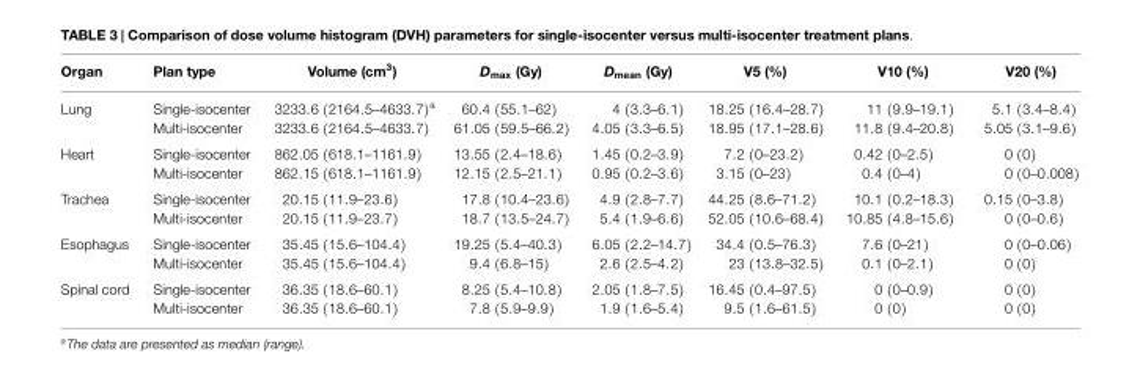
<table><thead><tr><td>Organ</td><td>Plan type</td><td>Volume (cm<sup>3</sup>)</td><td>D<sub>max</sub> (Gy)</td><td>D<sub>mean</sub> (Gy)</td><td>V5 (%)</td><td>V10 (%)</td><td>V20 (%)</td></tr></thead><tbody><tr><td rowspan="2">Lung</td><td>Single-isocenter</td><td>3233.6 (2164.5–4633.7)<sup>a</sup></td><td>60.4 (55.1–62)</td><td>4 (3.3–6.1)</td><td>18.25 (16.4–28.7)</td><td>11 (9.9–19.1)</td><td>5.1 (3.4–8.4)</td></tr><tr><td>Multi-isocenter</td><td>3233.6 (2164.5–4633.7)</td><td>61.05 (59.5–66.2)</td><td>4.05 (3.3–6.5)</td><td>18.95 (17.1–28.6)</td><td>11.8 (9.4–20.8)</td><td>5.05 (3.1–9.6)</td></tr><tr><td rowspan="2">Heart</td><td>Single-isocenter</td><td>862.05 (618.1–1161.9)</td><td>13.55 (2.4–18.6)</td><td>1.45 (0.2–3.9)</td><td>7.2 (0–23.2)</td><td>0.42 (0–2.5)</td><td>0 (0)</td></tr><tr><td>Multi-isocenter</td><td>862.15 (618.1–1161.9)</td><td>12.15 (2.5–21.1)</td><td>0.95 (0.2–3.6)</td><td>3.15 (0–23)</td><td>0.4 (0–4)</td><td>0 (0–0.008)</td></tr><tr><td rowspan="2">Trachea</td><td>Single-isocenter</td><td>20.15 (11.9–23.6)</td><td>17.8 (10.4–23.6)</td><td>4.9 (2.8–7.7)</td><td>44.25 (8.6–71.2)</td><td>10.1 (0.2–18.3)</td><td>0.15 (0–3.8)</td></tr><tr><td>Multi-isocenter</td><td>20.15 (11.9–23.7)</td><td>18.7 (13.5–24.7)</td><td>5.4 (1.9–6.6)</td><td>52.05 (10.6–68.4)</td><td>10.85 (4.8–15.6)</td><td>0 (0–0.6)</td></tr><tr><td rowspan="2">Esophagus</td><td>Single-isocenter</td><td>35.45 (15.6–104.4)</td><td>19.25 (5.4–40.3)</td><td>6.05 (2.2–14.7)</td><td>34.4 (0.5–76.3)</td><td>7.6 (0–21)</td><td>0 (0–0.06)</td></tr><tr><td>Multi-isocenter</td><td>35.45 (15.6–104.4)</td><td>9.4 (6.8–15)</td><td>2.6 (2.5–4.2)</td><td>23 (13.8–32.5)</td><td>0.1 (0–2.1)</td><td>0 (0)</td></tr><tr><td rowspan="2">Spinal cord</td><td>Single-isocenter</td><td>36.35 (18.6–60.1)</td><td>8.25 (5.4–10.8)</td><td>2.05 (1.8–7.5)</td><td>16.45 (0.4–97.5)</td><td>0 (0–0.9)</td><td>0 (0)</td></tr><tr><td>Multi-isocenter</td><td>36.35 (18.6–60.1)</td><td>7.8 (5.9–9.9)</td><td>1.9 (1.6–5.4)</td><td>9.5 (1.6–61.5)</td><td>0 (0)</td><td>0 (0)</td></tr></tbody></table>